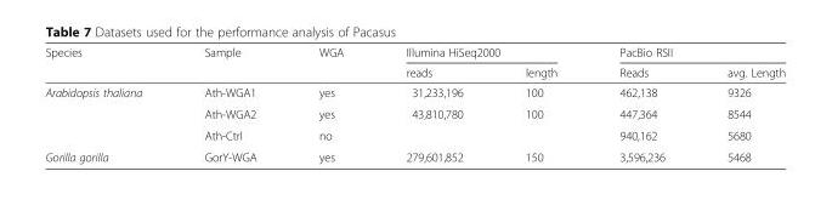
<table><thead><tr><td rowspan="2">Species</td><td rowspan="2">Sample</td><td rowspan="2">WGA</td><td colspan="2">Illumina HiSeq2000</td><td colspan="2">PacBio RSII</td></tr><tr><td>reads</td><td>length</td><td>Reads</td><td>avg. Length</td></tr></thead><tbody><tr><td rowspan="3">Arabidopsis thaliana</td><td>Ath-WGA1</td><td>yes</td><td>31,233,196</td><td>100</td><td>462,138</td><td>9326</td></tr><tr><td>Ath-WGA2</td><td>yes</td><td>43,810,780</td><td>100</td><td>447,364</td><td>8544</td></tr><tr><td>Ath-Ctrl</td><td>no</td><td></td><td></td><td>940,162</td><td>5680</td></tr><tr><td>Gorilla gorilla</td><td>GorY-WGA</td><td>yes</td><td>279,601,852</td><td>150</td><td>3,596,236</td><td>5468</td></tr></tbody></table>